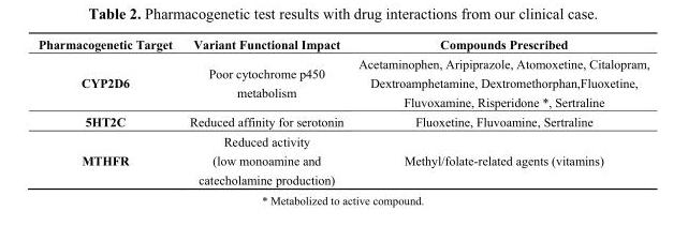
<table><thead><tr><td>Pharmacogenetic Target</td><td>Variant Functional Impact</td><td>Compounds Prescribed</td></tr></thead><tbody><tr><td>CYP2D6</td><td>Poor cytochrome p450 metabolism</td><td>Acetaminophen, Aripiprazole, Atomoxetine, Citalopram, Dextroamphetamine, Dextromethorphan,Fluoxetine, Fluvoxamine, Risperidone *, Sertraline</td></tr><tr><td>5HT2C</td><td>Reduced affinity for serotonin</td><td>Fluoxetine, Fluvoamine, Sertraline</td></tr><tr><td>MTHFR</td><td>Reduced activity (low monoamine and catecholamine production)</td><td>Methyl/folate-related agents (vitamins)</td></tr></tbody></table>